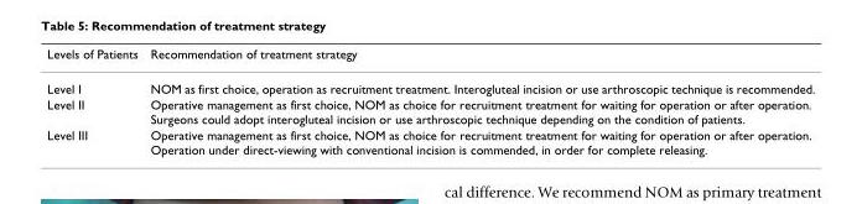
<table><thead><tr><td>Levels of Patients</td><td>Recommendation of treatment strategy</td></tr></thead><tbody><tr><td>Level I</td><td>NOM as first choice, operation as recruitment treatment. Interogluteal incision or use arthroscopic technique is recommended.</td></tr><tr><td>Level II</td><td>Operative management as first choice, NOM as choice for recruitment treatment for waiting for operation or after operation. Surgeons could adopt interogluteal incision or use arthroscopic technique depending on the condition of patients.</td></tr><tr><td>Level III</td><td>Operative management as first choice, NOM as choice for recruitment treatment for waiting for operation or after operation. Operation under direct-viewing with conventional incision is commended, in order for complete releasing.</td></tr></tbody></table>